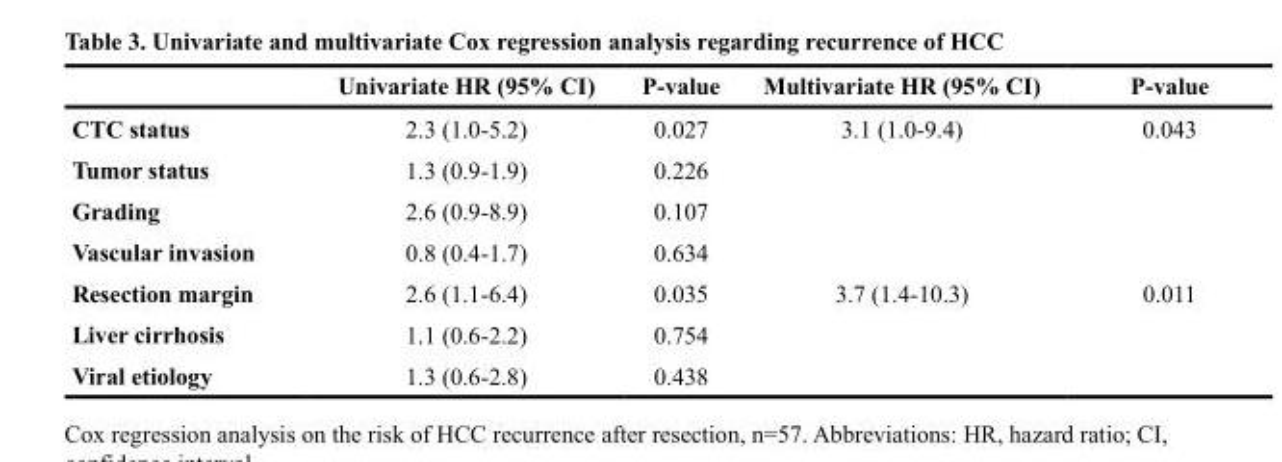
<table><thead><tr><td></td><td>Univariate HR (95% CI)</td><td>P-value</td><td>Multivariate HR (95% CI)</td><td>P-value</td></tr></thead><tbody><tr><td>CTC status</td><td>2.3 (1.0-5.2)</td><td>0.027</td><td>3.1 (1.0-9.4)</td><td>0.043</td></tr><tr><td>Tumor status</td><td>1.3 (0.9-1.9)</td><td>0.226</td><td></td><td></td></tr><tr><td>Grading</td><td>2.6 (0.9-8.9)</td><td>0.107</td><td></td><td></td></tr><tr><td>Vascular invasion</td><td>0.8 (0.4-1.7)</td><td>0.634</td><td></td><td></td></tr><tr><td>Resection margin</td><td>2.6 (1.1-6.4)</td><td>0.035</td><td>3.7 (1.4-10.3)</td><td>0.011</td></tr><tr><td>Liver cirrhosis</td><td>1.1 (0.6-2.2)</td><td>0.754</td><td></td><td></td></tr><tr><td>Viral etiology</td><td>1.3 (0.6-2.8)</td><td>0.438</td><td></td><td></td></tr></tbody></table>